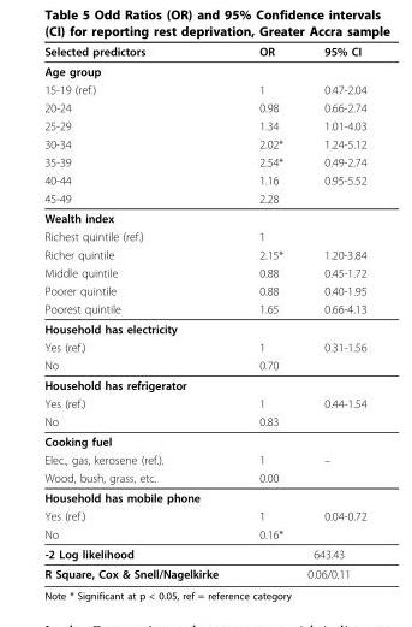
<table><thead><tr><td>Selected predictors</td><td>OR</td><td>95% CI</td></tr></thead><tbody><tr><td colspan="3">Age group</td></tr><tr><td>15-19 (ref.)</td><td>1</td><td>0.47-2.04</td></tr><tr><td>20-24</td><td>0.98</td><td>0.66-2.74</td></tr><tr><td>25-29</td><td>1.34</td><td>1.01-4.03</td></tr><tr><td>30-34</td><td>2.02*</td><td>1.24-5.12</td></tr><tr><td>35-39</td><td>2.54*</td><td>0.49-2.74</td></tr><tr><td>40-44</td><td>1.16</td><td>0.95-5.52</td></tr><tr><td>45-49</td><td>2.28</td><td></td></tr><tr><td colspan="3">Wealth index</td></tr><tr><td>Richest quintile (ref.)</td><td>1</td><td></td></tr><tr><td>Richer quintile</td><td>2.15*</td><td>1.20-3.84</td></tr><tr><td>Middle quintile</td><td>0.88</td><td>0.45-1.72</td></tr><tr><td>Poorer quintile</td><td>0.88</td><td>0.40-1.95</td></tr><tr><td>Poorest quintile</td><td>1.65</td><td>0.66-4.13</td></tr><tr><td colspan="3">Household has electricity</td></tr><tr><td>Yes (ref.)</td><td>1</td><td>0.31-1.56</td></tr><tr><td>No</td><td>0.70</td><td></td></tr><tr><td colspan="3">Household has refrigerator</td></tr><tr><td>Yes (ref.)</td><td>1</td><td>0.44-1.54</td></tr><tr><td>No</td><td>0.83</td><td></td></tr><tr><td colspan="3">Cooking fuel</td></tr><tr><td>Elec., gas, kerosene (ref.).</td><td>1</td><td>–</td></tr><tr><td>Wood, bush, grass, etc.</td><td>0.00</td><td></td></tr><tr><td colspan="3">Household has mobile phone</td></tr><tr><td>Yes (ref.)</td><td>1</td><td>0.04-0.72</td></tr><tr><td>No</td><td>0.16*</td><td></td></tr><tr><td>-2 Log likelihood</td><td colspan="2">643.43</td></tr><tr><td>R Square, Cox &amp; Snell/Nagelkirke</td><td colspan="2">0.06/0.11</td></tr></tbody></table>